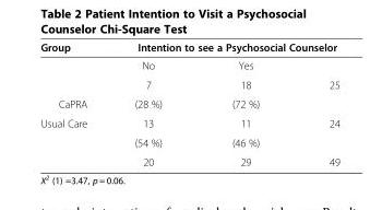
<table><thead><tr><td rowspan="2">Group</td><td colspan="3">Intention to see a Psychosocial Counselor</td></tr><tr><td>No</td><td>Yes</td><td></td></tr></thead><tbody><tr><td></td><td>7</td><td>18</td><td rowspan="2">25</td></tr><tr><td>CaPRA</td><td>(28 %)</td><td>(72 %)</td></tr><tr><td rowspan="3">Usual Care</td><td>13</td><td>11</td><td rowspan="2">24</td></tr><tr><td>(54 %)</td><td>(46 %)</td></tr><tr><td>20</td><td>29</td><td>49</td></tr></tbody></table>